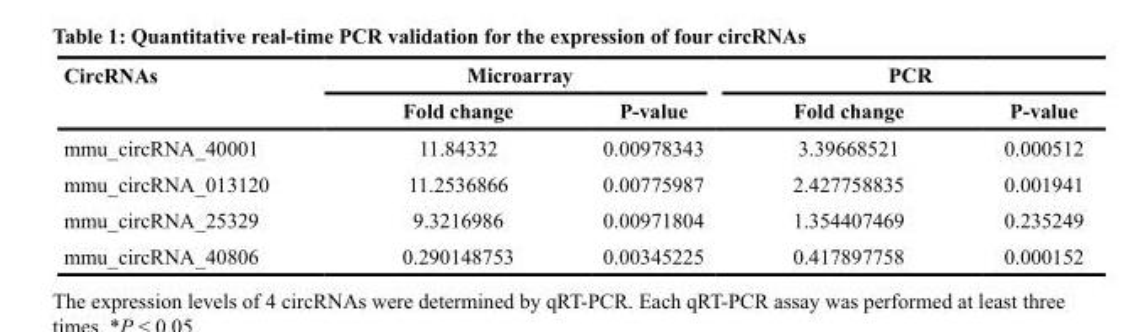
<table><thead><tr><td rowspan="2">CircRNAs</td><td colspan="2">Microarray</td><td colspan="2">PCR</td></tr><tr><td>Fold change</td><td>P-value</td><td>Fold change</td><td>P-value</td></tr></thead><tbody><tr><td>mmu_circRNA_40001</td><td>11.84332</td><td>0.00978343</td><td>3.39668521</td><td>0.000512</td></tr><tr><td>mmu_circRNA_013120</td><td>11.2536866</td><td>0.00775987</td><td>2.427758835</td><td>0.001941</td></tr><tr><td>mmu_circRNA_25329</td><td>9.3216986</td><td>0.00971804</td><td>1.354407469</td><td>0.235249</td></tr><tr><td>mmu_circRNA_40806</td><td>0.290148753</td><td>0.00345225</td><td>0.417897758</td><td>0.000152</td></tr></tbody></table>